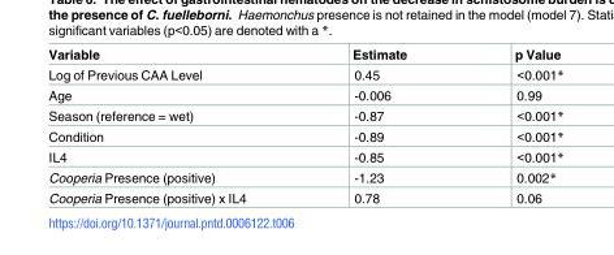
<table><thead><tr><td>Variable</td><td>Estimate</td><td>p Value</td></tr></thead><tbody><tr><td>Log of Previous CAA Level</td><td>0.45</td><td>&lt;0.001*</td></tr><tr><td>Age</td><td>-0.006</td><td>0.99</td></tr><tr><td>Season (reference = wet)</td><td>-0.87</td><td>&lt;0.001*</td></tr><tr><td>Condition</td><td>-0.89</td><td>&lt;0.001*</td></tr><tr><td>IL4</td><td>-0.85</td><td>&lt;0.001*</td></tr><tr><td>Cooperia Presence (positive)</td><td>-1.23</td><td>0.002*</td></tr><tr><td>Cooperia Presence (positive) x IL4</td><td>0.78</td><td>0.06</td></tr></tbody></table>